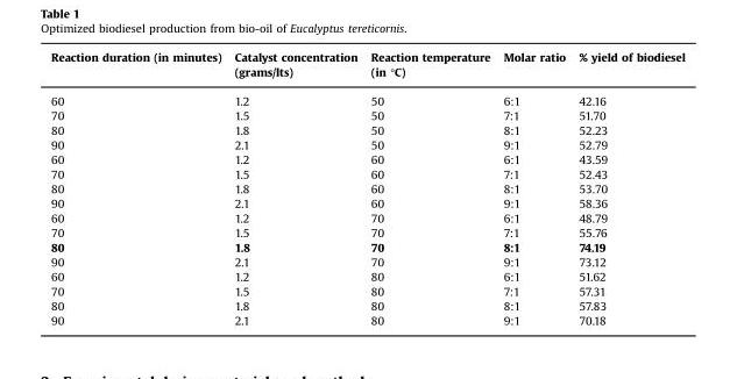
<table><thead><tr><td>Reaction duration (in minutes)</td><td>Catalyst concentration (grams/lts)</td><td>Reaction temperature (in °C)</td><td>Molar ratio</td><td>% yield of biodiesel</td></tr></thead><tbody><tr><td>60</td><td>1.2</td><td>50</td><td>6:1</td><td>42.16</td></tr><tr><td>70</td><td>1.5</td><td>50</td><td>7:1</td><td>51.70</td></tr><tr><td>80</td><td>1.8</td><td>50</td><td>8:1</td><td>52.23</td></tr><tr><td>90</td><td>2.1</td><td>50</td><td>9:1</td><td>52.79</td></tr><tr><td>60</td><td>1.2</td><td>60</td><td>6:1</td><td>43.59</td></tr><tr><td>70</td><td>1.5</td><td>60</td><td>7:1</td><td>52.43</td></tr><tr><td>80</td><td>1.8</td><td>60</td><td>8:1</td><td>53.70</td></tr><tr><td>90</td><td>2.1</td><td>60</td><td>9:1</td><td>58.36</td></tr><tr><td>60</td><td>1.2</td><td>70</td><td>6:1</td><td>48.79</td></tr><tr><td>70</td><td>1.5</td><td>70</td><td>7:1</td><td>55.76</td></tr><tr><td>80</td><td>1.8</td><td>70</td><td>8:1</td><td>74.19</td></tr><tr><td>90</td><td>2.1</td><td>70</td><td>9:1</td><td>73.12</td></tr><tr><td>60</td><td>1.2</td><td>80</td><td>6:1</td><td>51.62</td></tr><tr><td>70</td><td>1.5</td><td>80</td><td>7:1</td><td>57.31</td></tr><tr><td>80</td><td>1.8</td><td>80</td><td>8:1</td><td>57.83</td></tr><tr><td>90</td><td>2.1</td><td>80</td><td>9:1</td><td>70.18</td></tr></tbody></table>